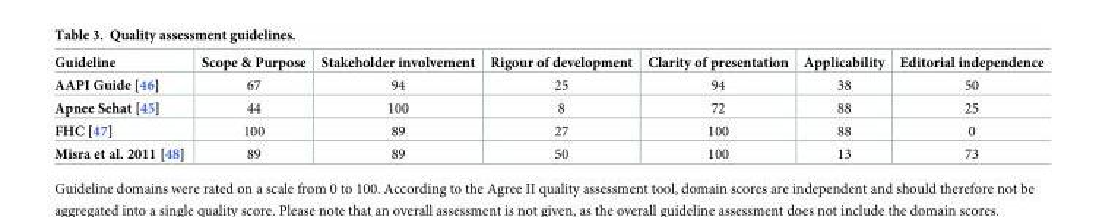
<table><thead><tr><td>Guideline</td><td>Scope &amp; Purpose</td><td>Stakeholder involvement</td><td>Rigour of development</td><td>Clarity of presentation</td><td>Applicability</td><td>Editorial independence</td></tr></thead><tbody><tr><td>AAPI Guide [46]</td><td>67</td><td>94</td><td>25</td><td>94</td><td>38</td><td>50</td></tr><tr><td>Apnee Sehat [45]</td><td>44</td><td>100</td><td>8</td><td>72</td><td>88</td><td>25</td></tr><tr><td>FHC [47]</td><td>100</td><td>89</td><td>27</td><td>100</td><td>88</td><td>0</td></tr><tr><td>Misra et al. 2011 [48]</td><td>89</td><td>89</td><td>50</td><td>100</td><td>13</td><td>73</td></tr></tbody></table>